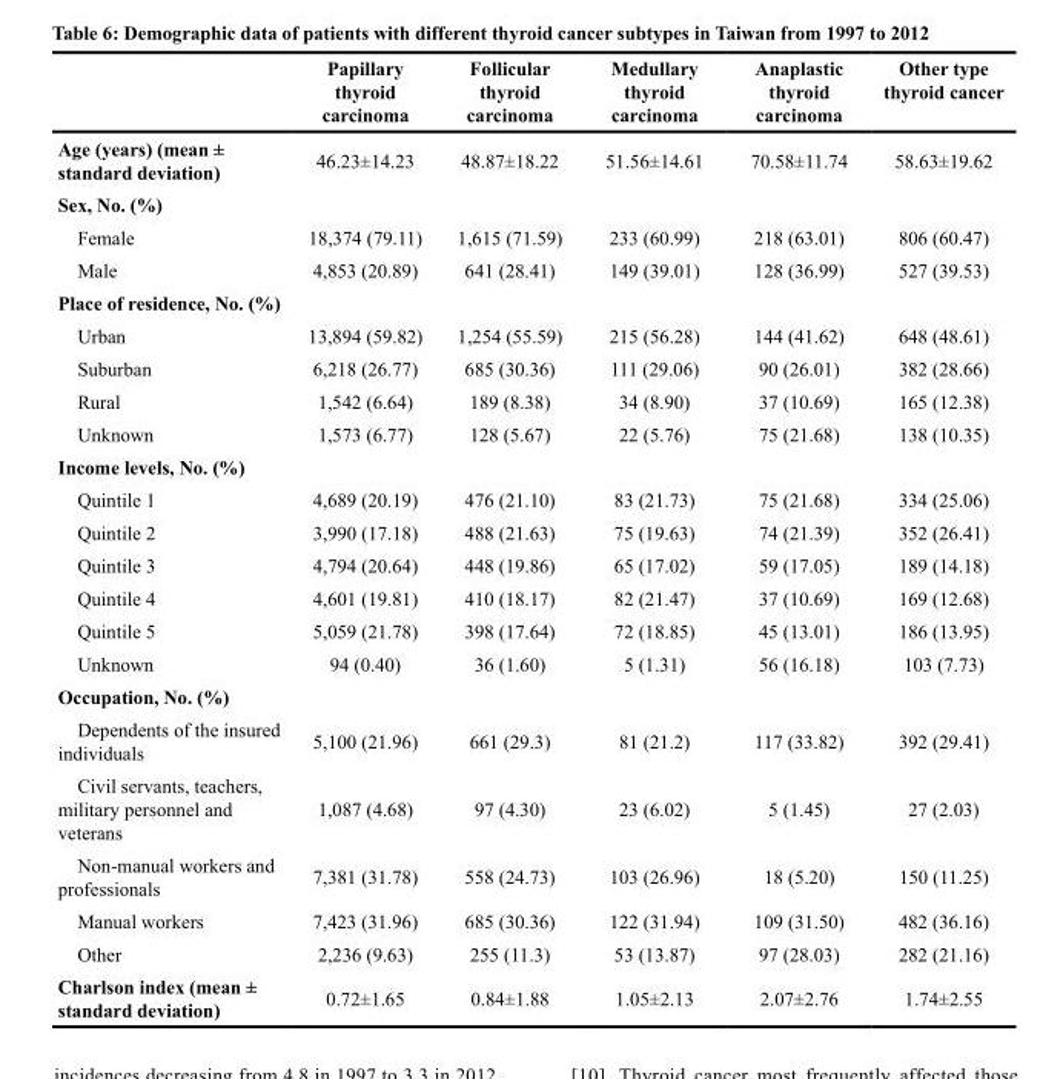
<table><thead><tr><td></td><td>Papillary thyroid carcinoma</td><td>Follicular thyroid carcinoma</td><td>Medullary thyroid carcinoma</td><td>Anaplastic thyroid carcinoma</td><td>Other type thyroid cancer</td></tr></thead><tbody><tr><td>Age (years) (mean ± standard deviation)</td><td>46.23±14.23</td><td>48.87±18.22</td><td>51.56±14.61</td><td>70.58±11.74</td><td>58.63±19.62</td></tr><tr><td colspan="6">Sex, No. (%)</td></tr><tr><td>Female</td><td>18,374 (79.11)</td><td>1,615 (71.59)</td><td>233 (60.99)</td><td>218 (63.01)</td><td>806 (60.47)</td></tr><tr><td>Male</td><td>4,853 (20.89)</td><td>641 (28.41)</td><td>149 (39.01)</td><td>128 (36.99)</td><td>527 (39.53)</td></tr><tr><td colspan="6">Place of residence, No. (%)</td></tr><tr><td>Urban</td><td>13,894 (59.82)</td><td>1,254 (55.59)</td><td>215 (56.28)</td><td>144 (41.62)</td><td>648 (48.61)</td></tr><tr><td>Suburban</td><td>6,218 (26.77)</td><td>685 (30.36)</td><td>111 (29.06)</td><td>90 (26.01)</td><td>382 (28.66)</td></tr><tr><td>Rural</td><td>1,542 (6.64)</td><td>189 (8.38)</td><td>34 (8.90)</td><td>37 (10.69)</td><td>165 (12.38)</td></tr><tr><td>Unknown</td><td>1,573 (6.77)</td><td>128 (5.67)</td><td>22 (5.76)</td><td>75 (21.68)</td><td>138 (10.35)</td></tr><tr><td colspan="6">Income levels, No. (%)</td></tr><tr><td>Quintile 1</td><td>4,689 (20.19)</td><td>476 (21.10)</td><td>83 (21.73)</td><td>75 (21.68)</td><td>334 (25.06)</td></tr><tr><td>Quintile 2</td><td>3,990 (17.18)</td><td>488 (21.63)</td><td>75 (19.63)</td><td>74 (21.39)</td><td>352 (26.41)</td></tr><tr><td>Quintile 3</td><td>4,794 (20.64)</td><td>448 (19.86)</td><td>65 (17.02)</td><td>59 (17.05)</td><td>189 (14.18)</td></tr><tr><td>Quintile 4</td><td>4,601 (19.81)</td><td>410 (18.17)</td><td>82 (21.47)</td><td>37 (10.69)</td><td>169 (12.68)</td></tr><tr><td>Quintile 5</td><td>5,059 (21.78)</td><td>398 (17.64)</td><td>72 (18.85)</td><td>45 (13.01)</td><td>186 (13.95)</td></tr><tr><td>Unknown</td><td>94 (0.40)</td><td>36 (1.60)</td><td>5 (1.31)</td><td>56 (16.18)</td><td>103 (7.73)</td></tr><tr><td colspan="6">Occupation, No. (%)</td></tr><tr><td>Dependents of the insured individuals</td><td>5,100 (21.96)</td><td>661 (29.3)</td><td>81 (21.2)</td><td>117 (33.82)</td><td>392 (29.41)</td></tr><tr><td>Civil servants, teachers, military personnel and veterans</td><td>1,087 (4.68)</td><td>97 (4.30)</td><td>23 (6.02)</td><td>5 (1.45)</td><td>27 (2.03)</td></tr><tr><td>Non-manual workers and professionals</td><td>7,381 (31.78)</td><td>558 (24.73)</td><td>103 (26.96)</td><td>18 (5.20)</td><td>150 (11.25)</td></tr><tr><td>Manual workers</td><td>7,423 (31.96)</td><td>685 (30.36)</td><td>122 (31.94)</td><td>109 (31.50)</td><td>482 (36.16)</td></tr><tr><td>Other</td><td>2,236 (9.63)</td><td>255 (11.3)</td><td>53 (13.87)</td><td>97 (28.03)</td><td>282 (21.16)</td></tr><tr><td>Charlson index (mean ± standard deviation)</td><td>0.72±1.65</td><td>0.84±1.88</td><td>1.05±2.13</td><td>2.07±2.76</td><td>1.74±2.55</td></tr></tbody></table>